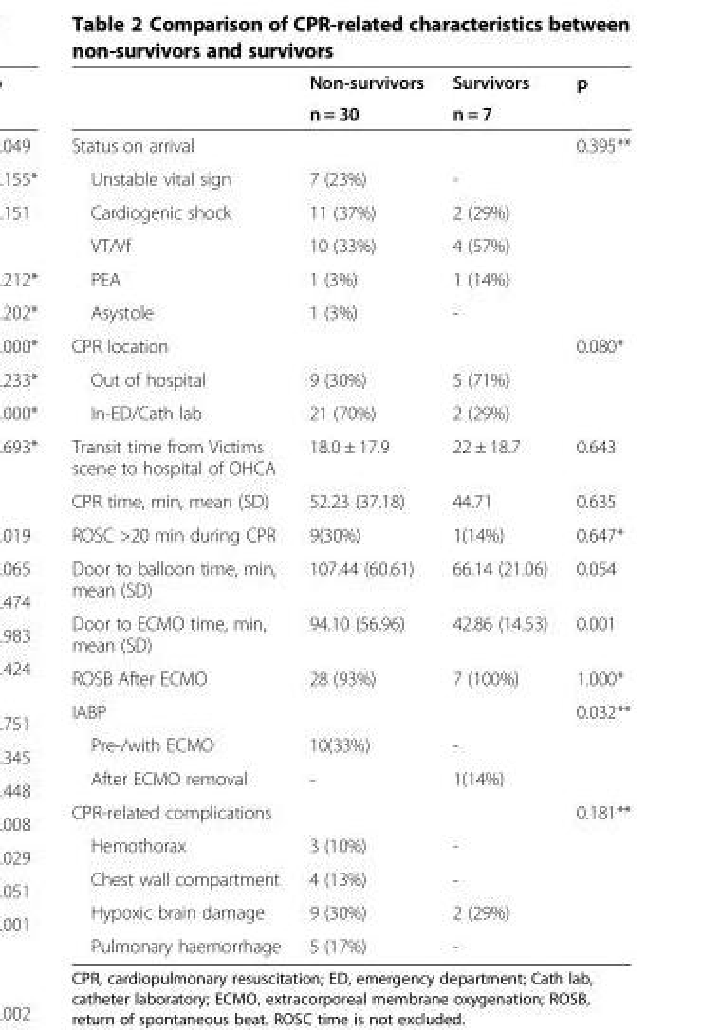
<table><thead><tr><td rowspan="2"></td><td rowspan="2">Non-survivors n = 30</td><td rowspan="2">Survivors n = 7</td><td rowspan="2">p</td></tr><tr></tr></thead><tbody><tr><td colspan="3">Status on arrival</td><td rowspan="6">0.395**</td></tr><tr><td>Unstable vital sign</td><td>7 (23%)</td><td>-</td></tr><tr><td>Cardiogenic shock</td><td>11 (37%)</td><td>2 (29%)</td></tr><tr><td>VT/Vf</td><td>10 (33%)</td><td>4 (57%)</td></tr><tr><td>PEA</td><td>1 (3%)</td><td>1 (14%)</td></tr><tr><td>Asystole</td><td>1 (3%)</td><td>-</td></tr><tr><td colspan="3">CPR location</td><td rowspan="3">0.080*</td></tr><tr><td>Out of hospital</td><td>9 (30%)</td><td>5 (71%)</td></tr><tr><td>In-ED/Cath lab</td><td>21 (70%)</td><td>2 (29%)</td></tr><tr><td>Transit time from Victims scene to hospital of OHCA</td><td>18.0 ± 17.9</td><td>22 ± 18.7</td><td>0.643</td></tr><tr><td>CPR time, min, mean (SD)</td><td>52.23 (37.18)</td><td>44.71</td><td>0.635</td></tr><tr><td>ROSC &gt;20 min during CPR</td><td>9(30%)</td><td>1(14%)</td><td>0.647*</td></tr><tr><td>Door to balloon time, min, mean (SD)</td><td>107.44 (60.61)</td><td>66.14 (21.06)</td><td>0.054</td></tr><tr><td>Door to ECMO time, min, mean (SD)</td><td>94.10 (56.96)</td><td>42.86 (14.53)</td><td>0.001</td></tr><tr><td>ROSB After ECMO</td><td>28 (93%)</td><td>7 (100%)</td><td>1.000*</td></tr><tr><td colspan="3">IABP</td><td rowspan="3">0.032**</td></tr><tr><td>Pre-/with ECMO</td><td>10(33%)</td><td>-</td></tr><tr><td>After ECMO removal</td><td>-</td><td>1(14%)</td></tr><tr><td colspan="3">CPR-related complications</td><td rowspan="5">0.181**</td></tr><tr><td>Hemothorax</td><td>3 (10%)</td><td>-</td></tr><tr><td>Chest wall compartment</td><td>4 (13%)</td><td>-</td></tr><tr><td>Hypoxic brain damage</td><td>9 (30%)</td><td>2 (29%)</td></tr><tr><td>Pulmonary haemorrhage</td><td>5 (17%)</td><td>-</td></tr></tbody></table>